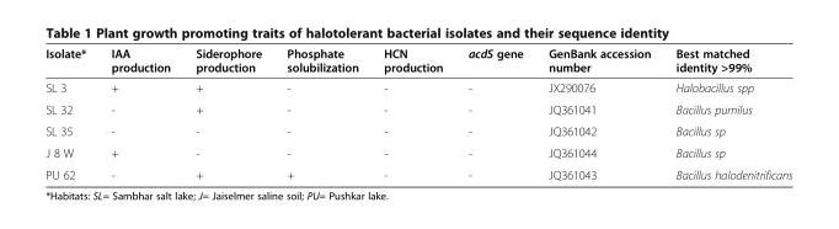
<table><thead><tr><td>Isolate*</td><td>IAA production</td><td>Siderophore production</td><td>Phosphate solubilization</td><td>HCN production</td><td>acdS gene</td><td>GenBank accession number</td><td>Best matched identity &gt;99%</td></tr></thead><tbody><tr><td>SL 3</td><td>+</td><td>+</td><td>-</td><td>-</td><td>-</td><td>JX290076</td><td>Halobacillus spp</td></tr><tr><td>SL 32</td><td>-</td><td>+</td><td>-</td><td>-</td><td>-</td><td>JQ361041</td><td>Bacillus pumilus</td></tr><tr><td>SL 35</td><td>-</td><td>-</td><td>-</td><td>-</td><td>-</td><td>JQ361042</td><td>Bacillus sp</td></tr><tr><td>J 8 W</td><td>+</td><td>-</td><td>-</td><td>-</td><td>-</td><td>JQ361044</td><td>Bacillus sp</td></tr><tr><td>PU 62</td><td>-</td><td>+</td><td>+</td><td>-</td><td>-</td><td>JQ361043</td><td>Bacillus halodenitrificans</td></tr></tbody></table>